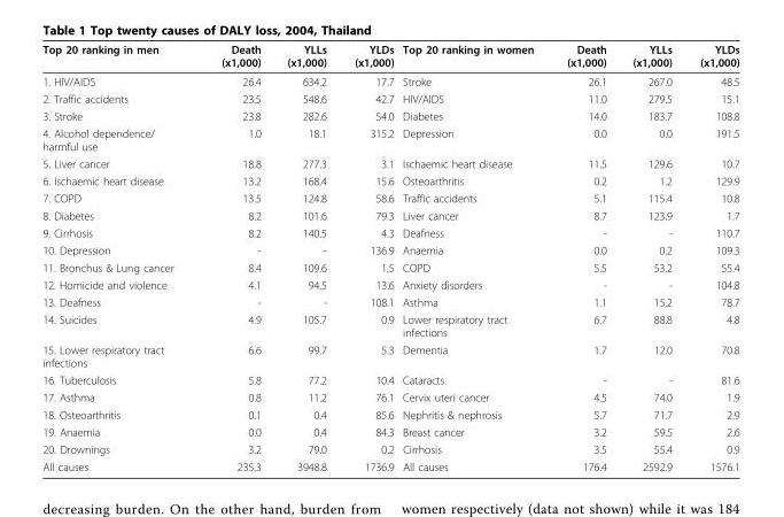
<table><thead><tr><td>Top 20 ranking in men</td><td>Death (x1,000)</td><td>YLLs (x1,000)</td><td>YLDs (x1,000)</td><td>Top 20 ranking in women</td><td>Death (x1,000)</td><td>YLLs (x1,000)</td><td>YLDs (x1,000)</td></tr></thead><tbody><tr><td>1. HIV/AIDS</td><td>26.4</td><td>634.2</td><td>17.7</td><td>Stroke</td><td>26.1</td><td>267.0</td><td>48.5</td></tr><tr><td>2. Traffic accidents</td><td>23.5</td><td>548.6</td><td>42.7</td><td>HIV/AIDS</td><td>11.0</td><td>279.5</td><td>15.1</td></tr><tr><td>3. Stroke</td><td>23.8</td><td>282.6</td><td>54.0</td><td>Diabetes</td><td>14.0</td><td>183.7</td><td>108.8</td></tr><tr><td>4. Alcohol dependence/ harmful use</td><td>1.0</td><td>18.1</td><td>315.2</td><td>Depression</td><td>0.0</td><td>0.0</td><td>191.5</td></tr><tr><td>5. Liver cancer</td><td>18.8</td><td>277.3</td><td>3.1</td><td>Ischaemic heart disease</td><td>11.5</td><td>129.6</td><td>10.7</td></tr><tr><td>6. Ischaemic heart disease</td><td>13.2</td><td>168.4</td><td>15.6</td><td>Osteoarthritis</td><td>0.2</td><td>1.2</td><td>129.9</td></tr><tr><td>7. COPD</td><td>13.5</td><td>124.8</td><td>58.6</td><td>Traffic accidents</td><td>5.1</td><td>115.4</td><td>10.8</td></tr><tr><td>8. Diabetes</td><td>8.2</td><td>101.6</td><td>79.3</td><td>Liver cancer</td><td>8.7</td><td>123.9</td><td>1.7</td></tr><tr><td>9. Cirrhosis</td><td>8.2</td><td>140.5</td><td>4.3</td><td>Deafness</td><td>-</td><td>-</td><td>110.7</td></tr><tr><td>10. Depression</td><td>-</td><td>-</td><td>136.9</td><td>Anaemia</td><td>0.0</td><td>0.2</td><td>109.3</td></tr><tr><td>11. Bronchus &amp; Lung cancer</td><td>8.4</td><td>109.6</td><td>1.5</td><td>COPD</td><td>5.5</td><td>53.2</td><td>55.4</td></tr><tr><td>12. Homicide and violence</td><td>4.1</td><td>94.5</td><td>13.6</td><td>Anxiety disorders</td><td>-</td><td>-</td><td>104.8</td></tr><tr><td>13. Deafness</td><td>-</td><td>-</td><td>108.1</td><td>Asthma</td><td>1.1</td><td>15.2</td><td>78.7</td></tr><tr><td>14. Suicides</td><td>4.9</td><td>105.7</td><td>0.9</td><td>Lower respiratory tract infections</td><td>6.7</td><td>88.8</td><td>4.8</td></tr><tr><td>15. Lower respiratory tract infections</td><td>6.6</td><td>99.7</td><td>5.3</td><td>Dementia</td><td>1.7</td><td>12.0</td><td>70.8</td></tr><tr><td>16. Tuberculosis</td><td>5.8</td><td>77.2</td><td>10.4</td><td>Cataracts</td><td>-</td><td>-</td><td>81.6</td></tr><tr><td>17. Asthma</td><td>0.8</td><td>11.2</td><td>76.1</td><td>Cervix uteri cancer</td><td>4.5</td><td>74.0</td><td>1.9</td></tr><tr><td>18. Osteoarthritis</td><td>0.1</td><td>0.4</td><td>85.6</td><td>Nephritis &amp; nephrosis</td><td>5.7</td><td>71.7</td><td>2.9</td></tr><tr><td>19. Anaemia</td><td>0.0</td><td>0.4</td><td>84.3</td><td>Breast cancer</td><td>3.2</td><td>59.5</td><td>2.6</td></tr><tr><td>20. Drownings</td><td>3.2</td><td>79.0</td><td>0.2</td><td>Cirrhosis</td><td>3.5</td><td>55.4</td><td>0.9</td></tr><tr><td>All causes</td><td>235.3</td><td>3948.8</td><td>1736.9</td><td>All causes</td><td>176.4</td><td>2592.9</td><td>1576.1</td></tr></tbody></table>